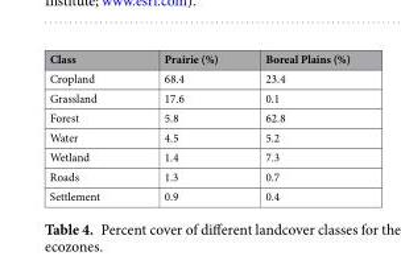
<table><thead><tr><td>Class</td><td>Prairie (%)</td><td>Boreal Plains (%)</td></tr></thead><tbody><tr><td>Cropland</td><td>68.4</td><td>23.4</td></tr><tr><td>Grassland</td><td>17.6</td><td>0.1</td></tr><tr><td>Forest</td><td>5.8</td><td>62.8</td></tr><tr><td>Water</td><td>4.5</td><td>5.2</td></tr><tr><td>Wetland</td><td>1.4</td><td>7.3</td></tr><tr><td>Roads</td><td>1.3</td><td>0.7</td></tr><tr><td>Settlement</td><td>0.9</td><td>0.4</td></tr></tbody></table>